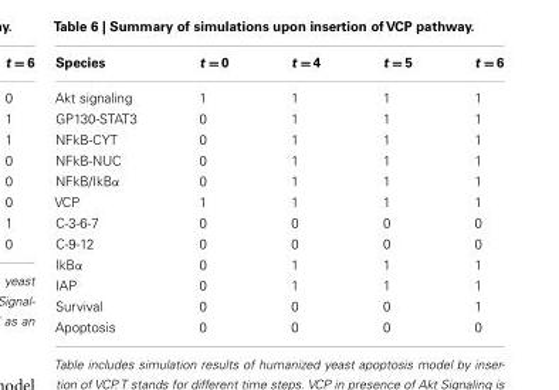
<table><thead><tr><td>Species</td><td>t = 0</td><td>t = 4</td><td>t = 5</td><td>t = 6</td></tr></thead><tbody><tr><td>Akt signaling</td><td>1</td><td>1</td><td>1</td><td>1</td></tr><tr><td>GP130-STAT3</td><td>0</td><td>1</td><td>1</td><td>1</td></tr><tr><td>NFkB-CYT</td><td>0</td><td>1</td><td>1</td><td>1</td></tr><tr><td>NFkB-NUC</td><td>0</td><td>1</td><td>1</td><td>1</td></tr><tr><td>NFkB/IkBα</td><td>0</td><td>1</td><td>1</td><td>1</td></tr><tr><td>VCP</td><td>1</td><td>1</td><td>1</td><td>1</td></tr><tr><td>C-3-6-7</td><td>0</td><td>0</td><td>0</td><td>0</td></tr><tr><td>C-9-12</td><td>0</td><td>0</td><td>0</td><td>0</td></tr><tr><td>IkBα</td><td>0</td><td>1</td><td>1</td><td>1</td></tr><tr><td>IAP</td><td>0</td><td>1</td><td>1</td><td>1</td></tr><tr><td>Survival</td><td>0</td><td>0</td><td>0</td><td>1</td></tr><tr><td>Apoptosis</td><td>0</td><td>0</td><td>0</td><td>0</td></tr></tbody></table>